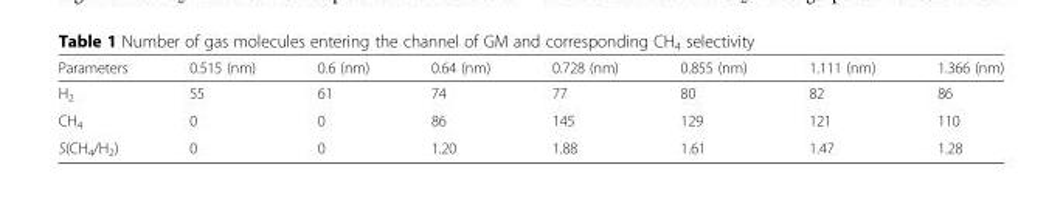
<table><thead><tr><td>Parameters</td><td>0.515 (nm)</td><td>0.6 (nm)</td><td>0.64 (nm)</td><td>0.728 (nm)</td><td>0.855 (nm)</td><td>1.111 (nm)</td><td>1.366 (nm)</td></tr></thead><tbody><tr><td>H<sub>2</sub></td><td>55</td><td>61</td><td>74</td><td>77</td><td>80</td><td>82</td><td>86</td></tr><tr><td>CH<sub>4</sub></td><td>0</td><td>0</td><td>86</td><td>145</td><td>129</td><td>121</td><td>110</td></tr><tr><td>S(CH<sub>4</sub>/H<sub>2</sub>)</td><td>0</td><td>0</td><td>1.20</td><td>1.88</td><td>1.61</td><td>1.47</td><td>1.28</td></tr></tbody></table>